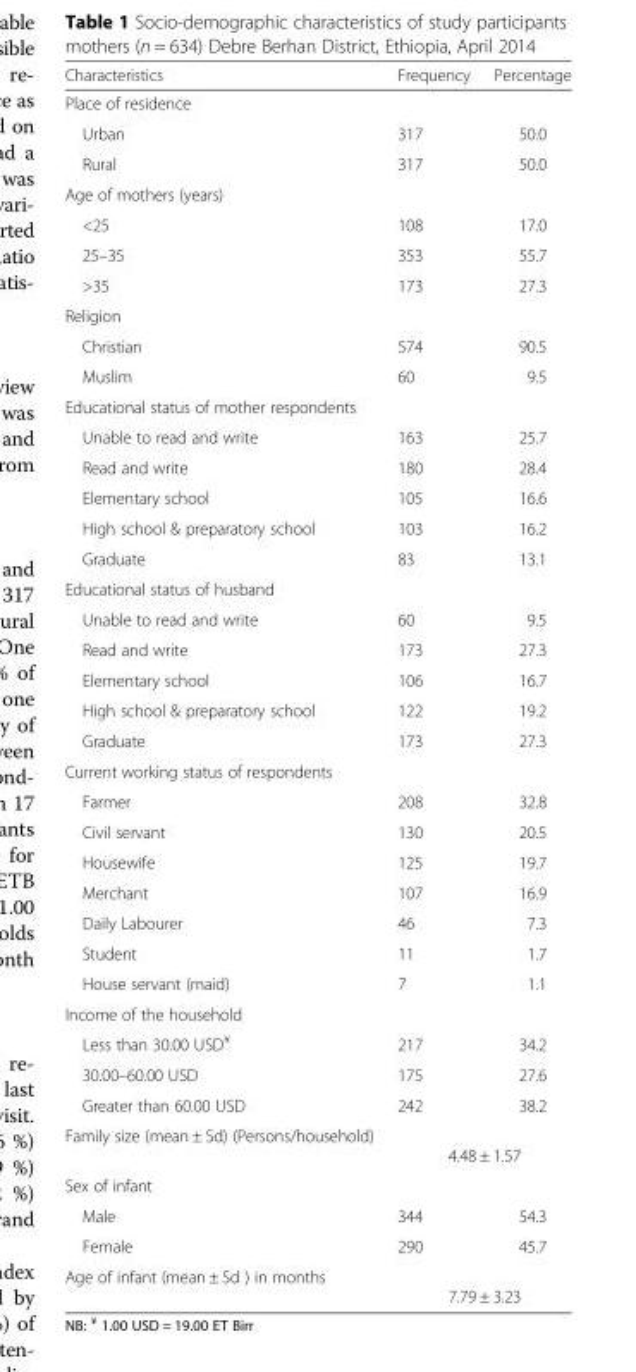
<table><thead><tr><td>Characteristics</td><td>Frequency</td><td>Percentage</td></tr></thead><tbody><tr><td colspan="3">Place of residence</td></tr><tr><td>Urban</td><td>317</td><td>50.0</td></tr><tr><td>Rural</td><td>317</td><td>50.0</td></tr><tr><td colspan="3">Age of mothers (years)</td></tr><tr><td>&lt;25</td><td>108</td><td>17.0</td></tr><tr><td>25–35</td><td>353</td><td>55.7</td></tr><tr><td>&gt;35</td><td>173</td><td>27.3</td></tr><tr><td colspan="3">Religion</td></tr><tr><td>Christian</td><td>574</td><td>90.5</td></tr><tr><td>Muslim</td><td>60</td><td>9.5</td></tr><tr><td colspan="3">Educational status of mother respondents</td></tr><tr><td>Unable to read and write</td><td>163</td><td>25.7</td></tr><tr><td>Read and write</td><td>180</td><td>28.4</td></tr><tr><td>Elementary school</td><td>105</td><td>16.6</td></tr><tr><td>High school &amp; preparatory school</td><td>103</td><td>16.2</td></tr><tr><td>Graduate</td><td>83</td><td>13.1</td></tr><tr><td colspan="3">Educational status of husband</td></tr><tr><td>Unable to read and write</td><td>60</td><td>9.5</td></tr><tr><td>Read and write</td><td>173</td><td>27.3</td></tr><tr><td>Elementary school</td><td>106</td><td>16.7</td></tr><tr><td>High school &amp; preparatory school</td><td>122</td><td>19.2</td></tr><tr><td>Graduate</td><td>173</td><td>27.3</td></tr><tr><td colspan="3">Current working status of respondents</td></tr><tr><td>Farmer</td><td>208</td><td>32.8</td></tr><tr><td>Civil servant</td><td>130</td><td>20.5</td></tr><tr><td>Housewife</td><td>125</td><td>19.7</td></tr><tr><td>Merchant</td><td>107</td><td>16.9</td></tr><tr><td>Daily Labourer</td><td>46</td><td>7.3</td></tr><tr><td>Student</td><td>11</td><td>1.7</td></tr><tr><td>House servant (maid)</td><td>7</td><td>1.1</td></tr><tr><td colspan="3">Income of the household</td></tr><tr><td>Less than 30.00 USD<sup>¥</sup></td><td>217</td><td>34.2</td></tr><tr><td>30.00–60.00 USD</td><td>175</td><td>27.6</td></tr><tr><td>Greater than 60.00 USD</td><td>242</td><td>38.2</td></tr><tr><td>Family size (mean ± Sd) (Persons/household)</td><td colspan="2">4.48 ± 1.57</td></tr><tr><td colspan="3">Sex of infant</td></tr><tr><td>Male</td><td>344</td><td>54.3</td></tr><tr><td>Female</td><td>290</td><td>45.7</td></tr><tr><td>Age of infant (mean ± Sd ) in months</td><td colspan="2">7.79 ± 3.23</td></tr></tbody></table>